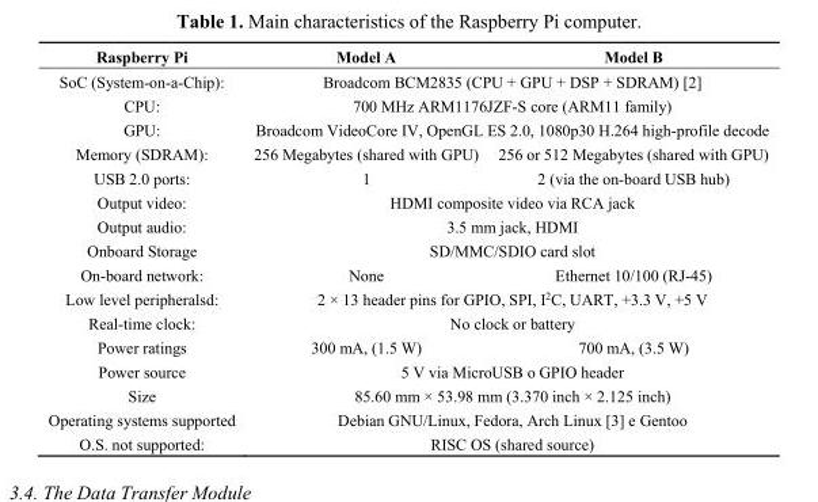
<table><thead><tr><td>Raspberry Pi</td><td>Model A</td><td>Model B</td></tr></thead><tbody><tr><td>SoC (System-on-a-Chip):</td><td colspan="2">Broadcom BCM2835 (CPU + GPU + DSP + SDRAM) [2]</td></tr><tr><td>CPU:</td><td colspan="2">700 MHz ARM1176JZF-S core (ARM11 family)</td></tr><tr><td>GPU:</td><td colspan="2">Broadcom VideoCore IV, OpenGL ES 2.0, 1080p30 H.264 high-profile decode</td></tr><tr><td>Memory (SDRAM):</td><td>256 Megabytes (shared with GPU)</td><td>256 or 512 Megabytes (shared with GPU)</td></tr><tr><td>USB 2.0 ports:</td><td>1</td><td>2 (via the on-board USB hub)</td></tr><tr><td>Output video:</td><td colspan="2">HDMI composite video via RCA jack</td></tr><tr><td>Output audio:</td><td colspan="2">3.5 mm jack, HDMI</td></tr><tr><td>Onboard Storage</td><td colspan="2">SD/MMC/SDIO card slot</td></tr><tr><td>On-board network:</td><td>None</td><td>Ethernet 10/100 (RJ-45)</td></tr><tr><td>Low level peripheralsd:</td><td colspan="2">2 × 13 header pins for GPIO, SPI, I<sup>2</sup>C, UART, +3.3 V, +5 V</td></tr><tr><td>Real-time clock:</td><td colspan="2">No clock or battery</td></tr><tr><td>Power ratings</td><td>300 mA, (1.5 W)</td><td>700 mA, (3.5 W)</td></tr><tr><td>Power source</td><td colspan="2">5 V via MicroUSB o GPIO header</td></tr><tr><td>Size</td><td colspan="2">85.60 mm × 53.98 mm (3.370 inch × 2.125 inch)</td></tr><tr><td>Operating systems supported</td><td colspan="2">Debian GNU/Linux, Fedora, Arch Linux [3] e Gentoo</td></tr><tr><td>O.S. not supported:</td><td colspan="2">RISC OS (shared source)</td></tr></tbody></table>